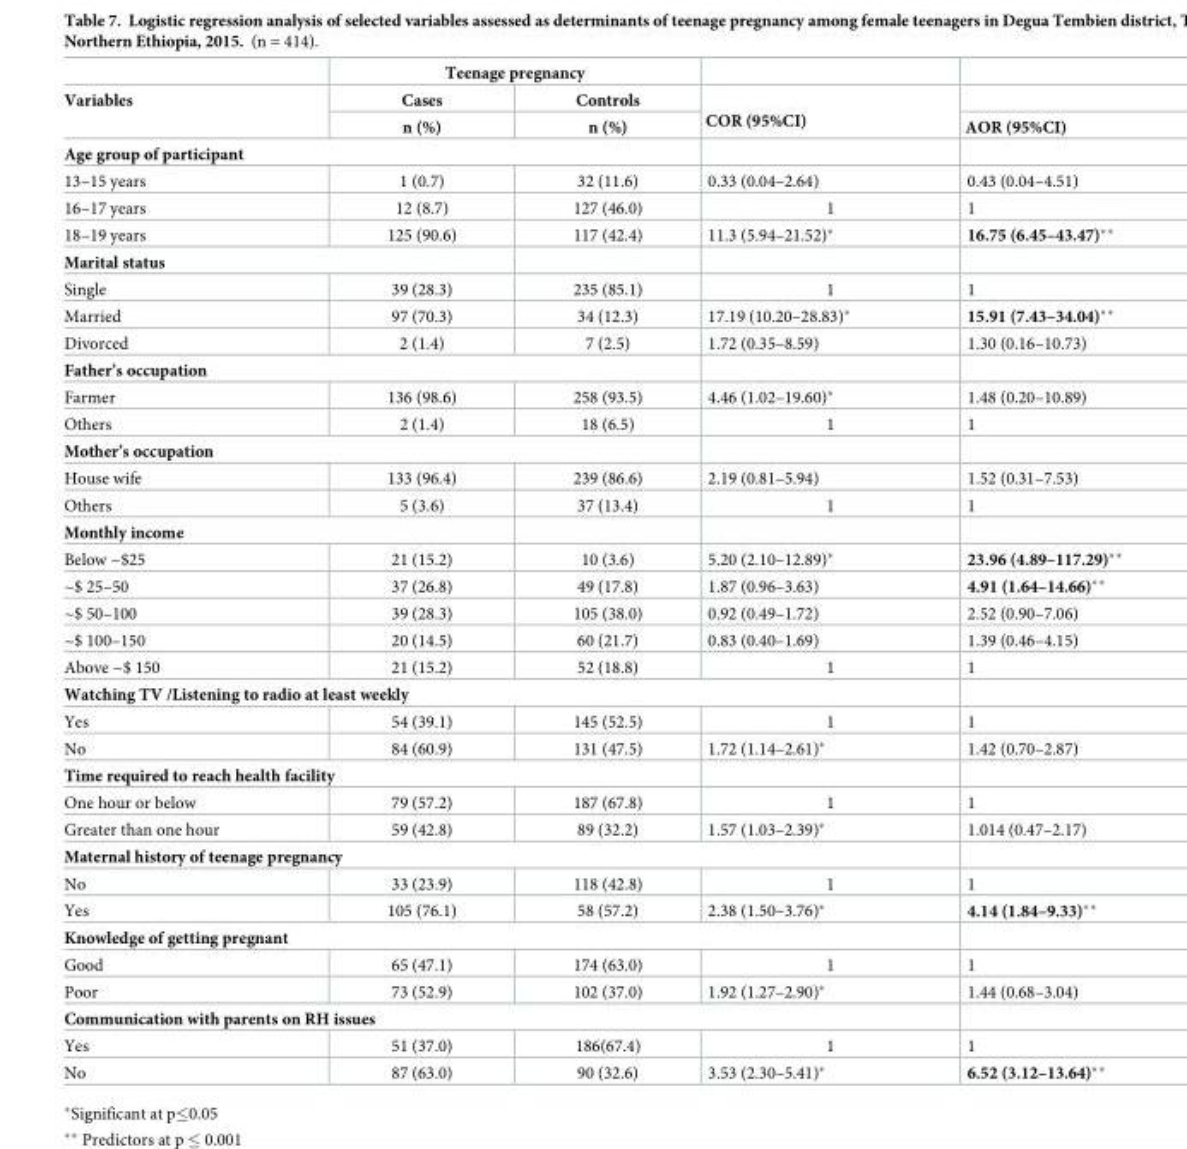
<table><thead><tr><td rowspan="3">Variables</td><td colspan="2">Teenage pregnancy</td><td rowspan="3">COR (95%CI)</td><td rowspan="3">AOR (95%CI)</td></tr><tr><td rowspan="2">Cases n (%)</td><td rowspan="2">Controls n (%)</td></tr><tr></tr></thead><tbody><tr><td colspan="5">Age group of participant</td></tr><tr><td>13–15 years</td><td>1 (0.7)</td><td>32 (11.6)</td><td>0.33 (0.04–2.64)</td><td>0.43 (0.04–4.51)</td></tr><tr><td>16–17 years</td><td>12 (8.7)</td><td>127 (46.0)</td><td>1</td><td>1</td></tr><tr><td>18–19 years</td><td>125 (90.6)</td><td>117 (42.4)</td><td>11.3 (5.94–21.52)*</td><td>16.75 (6.45–43.47)**</td></tr><tr><td colspan="5">Marital status</td></tr><tr><td>Single</td><td>39 (28.3)</td><td>235 (85.1)</td><td>1</td><td>1</td></tr><tr><td>Married</td><td>97 (70.3)</td><td>34 (12.3)</td><td>17.19 (10.20–28.83)*</td><td>15.91 (7.43–34.04)**</td></tr><tr><td>Divorced</td><td>2 (1.4)</td><td>7 (2.5)</td><td>1.72 (0.35–8.59)</td><td>1.30 (0.16–10.73)</td></tr><tr><td colspan="5">Father’s occupation</td></tr><tr><td>Farmer</td><td>136 (98.6)</td><td>258 (93.5)</td><td>4.46 (1.02–19.60)*</td><td>1.48 (0.20–10.89)</td></tr><tr><td>Others</td><td>2 (1.4)</td><td>18 (6.5)</td><td>1</td><td>1</td></tr><tr><td colspan="5">Mother’s occupation</td></tr><tr><td>House wife</td><td>133 (96.4)</td><td>239 (86.6)</td><td>2.19 (0.81–5.94)</td><td>1.52 (0.31–7.53)</td></tr><tr><td>Others</td><td>5 (3.6)</td><td>37 (13.4)</td><td>1</td><td>1</td></tr><tr><td colspan="5">Monthly income</td></tr><tr><td>Below ~$25</td><td>21 (15.2)</td><td>10 (3.6)</td><td>5.20 (2.10–12.89)*</td><td>23.96 (4.89–117.29)**</td></tr><tr><td>~$ 25–50</td><td>37 (26.8)</td><td>49 (17.8)</td><td>1.87 (0.96–3.63)</td><td>4.91 (1.64–14.66)**</td></tr><tr><td>~$ 50–100</td><td>39 (28.3)</td><td>105 (38.0)</td><td>0.92 (0.49–1.72)</td><td>2.52 (0.90–7.06)</td></tr><tr><td>~$ 100–150</td><td>20 (14.5)</td><td>60 (21.7)</td><td>0.83 (0.40–1.69)</td><td>1.39 (0.46–4.15)</td></tr><tr><td>Above ~$ 150</td><td>21 (15.2)</td><td>52 (18.8)</td><td>1</td><td>1</td></tr><tr><td colspan="5">Watching TV /Listening to radio at least weekly</td></tr><tr><td>Yes</td><td>54 (39.1)</td><td>145 (52.5)</td><td>1</td><td>1</td></tr><tr><td>No</td><td>84 (60.9)</td><td>131 (47.5)</td><td>1.72 (1.14–2.61)*</td><td>1.42 (0.70–2.87)</td></tr><tr><td colspan="5">Time required to reach health facility</td></tr><tr><td>One hour or below</td><td>79 (57.2)</td><td>187 (67.8)</td><td>1</td><td>1</td></tr><tr><td>Greater than one hour</td><td>59 (42.8)</td><td>89 (32.2)</td><td>1.57 (1.03–2.39)*</td><td>1.014 (0.47–2.17)</td></tr><tr><td colspan="5">Maternal history of teenage pregnancy</td></tr><tr><td>No</td><td>33 (23.9)</td><td>118 (42.8)</td><td>1</td><td>1</td></tr><tr><td>Yes</td><td>105 (76.1)</td><td>58 (57.2)</td><td>2.38 (1.50–3.76)*</td><td>4.14 (1.84–9.33)**</td></tr><tr><td colspan="5">Knowledge of getting pregnant</td></tr><tr><td>Good</td><td>65 (47.1)</td><td>174 (63.0)</td><td>1</td><td>1</td></tr><tr><td>Poor</td><td>73 (52.9)</td><td>102 (37.0)</td><td>1.92 (1.27–2.90)*</td><td>1.44 (0.68–3.04)</td></tr><tr><td colspan="5">Communication with parents on RH issues</td></tr><tr><td>Yes</td><td>51 (37.0)</td><td>186(67.4)</td><td>1</td><td>1</td></tr><tr><td>No</td><td>87 (63.0)</td><td>90 (32.6)</td><td>3.53 (2.30–5.41)*</td><td>6.52 (3.12–13.64)**</td></tr></tbody></table>